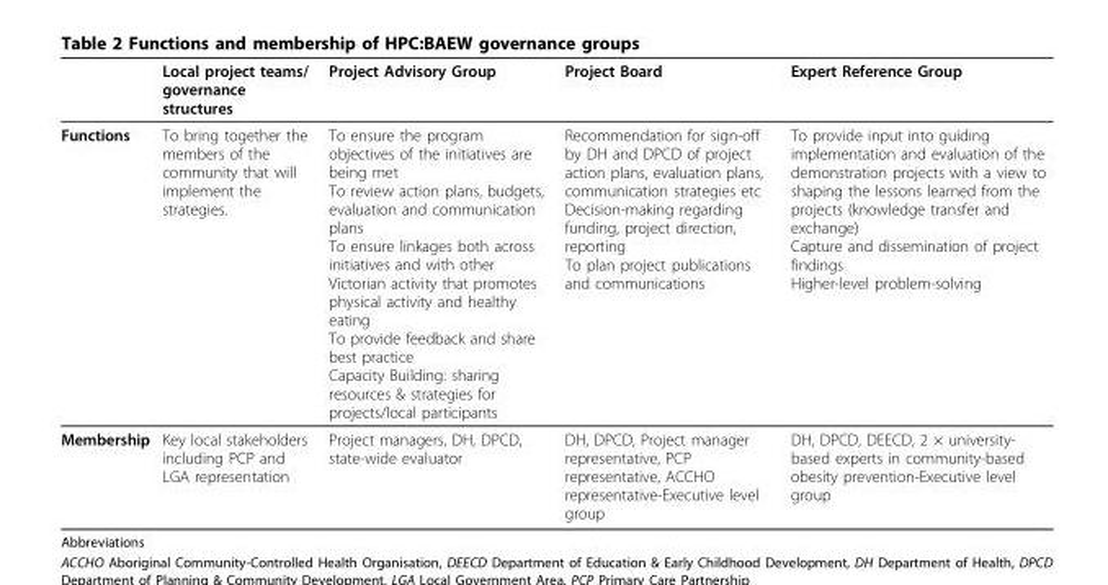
<table><thead><tr><td></td><td>Local project teams/ governance structures</td><td>Project Advisory Group</td><td>Project Board</td><td>Expert Reference Group</td></tr></thead><tbody><tr><td>Functions</td><td>To bring together the members of the community that will implement the strategies.</td><td>To ensure the program objectives of the initiatives are being met To review action plans, budgets, evaluation and communication plans To ensure linkages both across initiatives and with other Victorian activity that promotes physical activity and healthy eating To provide feedback and share best practice Capacity Building: sharing resources &amp; strategies for projects/local participants</td><td>Recommendation for sign-off by DH and DPCD of project action plans, evaluation plans, communication strategies etc Decision-making regarding funding, project direction, reporting To plan project publications and communications</td><td>To provide input into guiding implementation and evaluation of the demonstration projects with a view to shaping the lessons learned from the projects (knowledge transfer and exchange) Capture and dissemination of project findings Higher-level problem-solving</td></tr><tr><td>Membership</td><td>Key local stakeholders including PCP and LGA representation</td><td>Project managers, DH, DPCD, state-wide evaluator</td><td>DH, DPCD, Project manager representative, PCP representative, ACCHO representative-Executive level group</td><td>DH, DPCD, DEECD, 2 × university- based experts in community-based obesity prevention-Executive level group</td></tr></tbody></table>